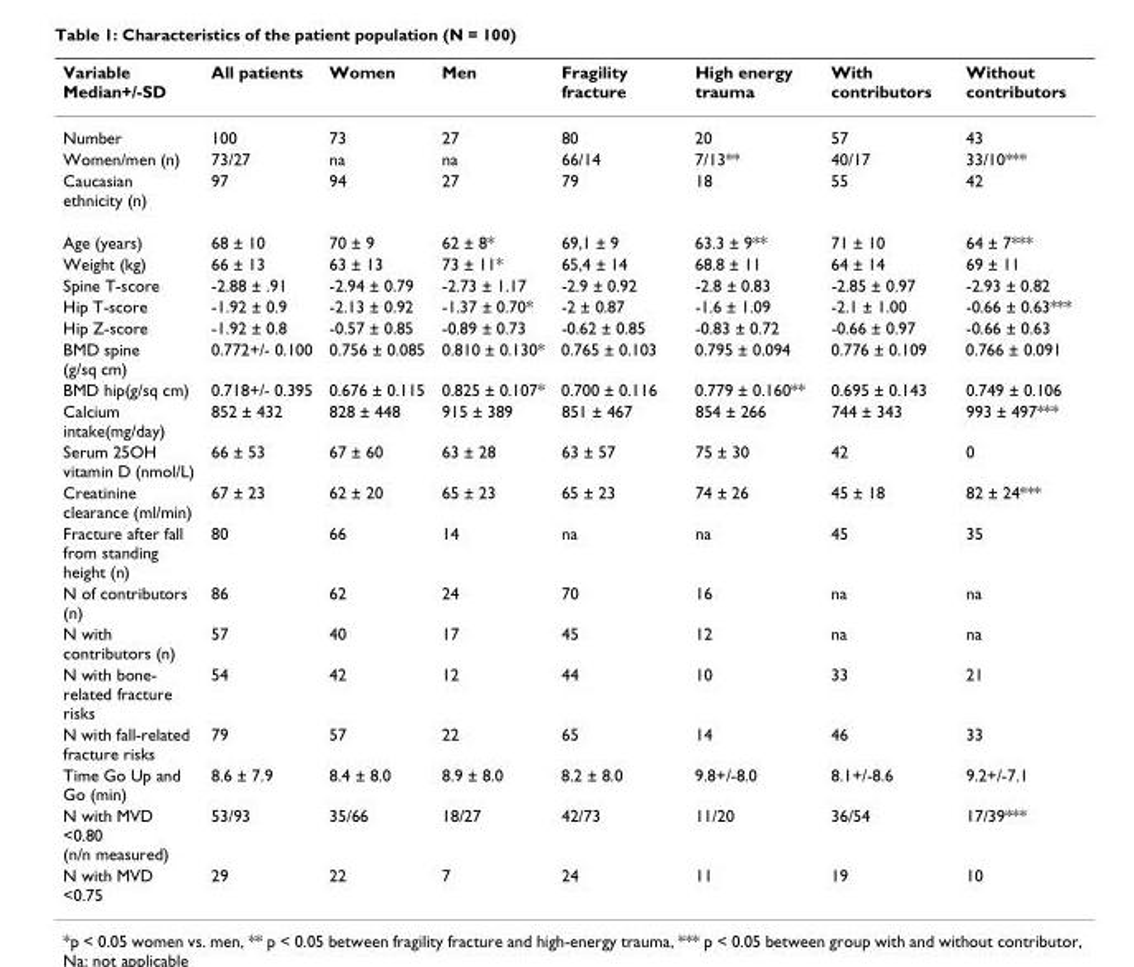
<table><thead><tr><td>Variable Median+/-SD</td><td>All patients</td><td>Women</td><td>Men</td><td>Fragility fracture</td><td>High energy trauma</td><td>With contributors</td><td>Without contributors</td></tr></thead><tbody><tr><td>Number</td><td>100</td><td>73</td><td>27</td><td>80</td><td>20</td><td>57</td><td>43</td></tr><tr><td>Women/men (n)</td><td>73/27</td><td>na</td><td>na</td><td>66/14</td><td>7/13**</td><td>40/17</td><td>33/10***</td></tr><tr><td>Caucasian ethnicity (n)</td><td>97</td><td>94</td><td>27</td><td>79</td><td>18</td><td>55</td><td>42</td></tr><tr><td>Age (years)</td><td>68 ± 10</td><td>70 ± 9</td><td>62 ± 8*</td><td>69,1 ± 9</td><td>63.3 ± 9**</td><td>71 ± 10</td><td>64 ± 7***</td></tr><tr><td>Weight (kg)</td><td>66 ± 13</td><td>63 ± 13</td><td>73 ± 11*</td><td>65,4 ± 14</td><td>68.8 ± 11</td><td>64 ± 14</td><td>69 ± 11</td></tr><tr><td>Spine T-score</td><td>-2.88 ± .91</td><td>-2.94 ± 0.79</td><td>-2.73 ± 1.17</td><td>-2.9 ± 0.92</td><td>-2.8 ± 0.83</td><td>-2.85 ± 0.97</td><td>-2.93 ± 0.82</td></tr><tr><td>Hip T-score</td><td>-1.92 ± 0.9</td><td>-2.13 ± 0.92</td><td>-1.37 ± 0.70*</td><td>-2 ± 0.87</td><td>-1.6 ± 1.09</td><td>-2.1 ± 1.00</td><td>-0.66 ± 0.63***</td></tr><tr><td>Hip Z-score</td><td>-1.92 ± 0.8</td><td>-0.57 ± 0.85</td><td>-0.89 ± 0.73</td><td>-0.62 ± 0.85</td><td>-0.83 ± 0.72</td><td>-0.66 ± 0.97</td><td>-0.66 ± 0.63</td></tr><tr><td>BMD spine (g/sq cm)</td><td>0.772+/- 0.100</td><td>0.756 ± 0.085</td><td>0.810 ± 0.130*</td><td>0.765 ± 0.103</td><td>0.795 ± 0.094</td><td>0.776 ± 0.109</td><td>0.766 ± 0.091</td></tr><tr><td>BMD hip(g/sq cm)</td><td>0.718+/- 0.395</td><td>0.676 ± 0.115</td><td>0.825 ± 0.107*</td><td>0.700 ± 0.116</td><td>0.779 ± 0.160**</td><td>0.695 ± 0.143</td><td>0.749 ± 0.106</td></tr><tr><td>Calcium intake(mg/day)</td><td>852 ± 432</td><td>828 ± 448</td><td>915 ± 389</td><td>851 ± 467</td><td>854 ± 266</td><td>744 ± 343</td><td>993 ± 497***</td></tr><tr><td>Serum 25OH vitamin D (nmol/L)</td><td>66 ± 53</td><td>67 ± 60</td><td>63 ± 28</td><td>63 ± 57</td><td>75 ± 30</td><td>42</td><td>0</td></tr><tr><td>Creatinine clearance (ml/min)</td><td>67 ± 23</td><td>62 ± 20</td><td>65 ± 23</td><td>65 ± 23</td><td>74 ± 26</td><td>45 ± 18</td><td>82 ± 24***</td></tr><tr><td>Fracture after fall from standing height (n)</td><td>80</td><td>66</td><td>14</td><td>na</td><td>na</td><td>45</td><td>35</td></tr><tr><td>N of contributors (n)</td><td>86</td><td>62</td><td>24</td><td>70</td><td>16</td><td>na</td><td>na</td></tr><tr><td>N with contributors (n)</td><td>57</td><td>40</td><td>17</td><td>45</td><td>12</td><td>na</td><td>na</td></tr><tr><td>N with bone- related fracture risks</td><td>54</td><td>42</td><td>12</td><td>44</td><td>10</td><td>33</td><td>21</td></tr><tr><td>N with fall-related fracture risks</td><td>79</td><td>57</td><td>22</td><td>65</td><td>14</td><td>46</td><td>33</td></tr><tr><td>Time Go Up and Go (min)</td><td>8.6 ± 7.9</td><td>8.4 ± 8.0</td><td>8.9 ± 8.0</td><td>8.2 ± 8.0</td><td>9.8+/-8.0</td><td>8.1+/-8.6</td><td>9.2+/-7.1</td></tr><tr><td>N with MVD &lt;0.80 (n/n measured)</td><td>53/93</td><td>35/66</td><td>18/27</td><td>42/73</td><td>11/20</td><td>36/54</td><td>17/39***</td></tr><tr><td>N with MVD &lt;0.75</td><td>29</td><td>22</td><td>7</td><td>24</td><td>11</td><td>19</td><td>10</td></tr></tbody></table>